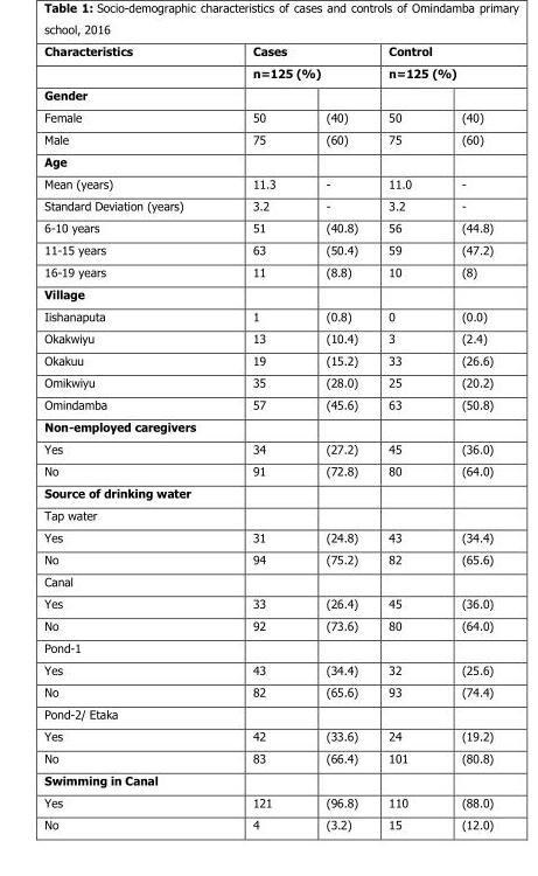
<table><thead><tr><td rowspan="3">Characteristics Gender</td><td rowspan="2" colspan="2">Cases n=125 (%)</td><td rowspan="2" colspan="2">Control n=125 (%)</td></tr><tr></tr><tr><td></td><td></td><td></td><td></td></tr></thead><tbody><tr><td>Female</td><td>50</td><td>(40)</td><td>50</td><td>(40)</td></tr><tr><td>Male</td><td>75</td><td>(60)</td><td>75</td><td>(60)</td></tr><tr><td colspan="5">Age</td></tr><tr><td>Mean (years)</td><td>11.3</td><td>-</td><td>11.0</td><td>-</td></tr><tr><td>Standard Deviation (years)</td><td>3.2</td><td>-</td><td>3.2</td><td>-</td></tr><tr><td>6-10 years</td><td>51</td><td>(40.8)</td><td>56</td><td>(44.8)</td></tr><tr><td>11-15 years</td><td>63</td><td>(50.4)</td><td>59</td><td>(47.2)</td></tr><tr><td>16-19 years</td><td>11</td><td>(8.8)</td><td>10</td><td>(8)</td></tr><tr><td colspan="5">Village</td></tr><tr><td>Iishanaputa</td><td>1</td><td>(0.8)</td><td>0</td><td>(0.0)</td></tr><tr><td>Okakwiyu</td><td>13</td><td>(10.4)</td><td>3</td><td>(2.4)</td></tr><tr><td>Okakuu</td><td>19</td><td>(15.2)</td><td>33</td><td>(26.6)</td></tr><tr><td>Omikwiyu</td><td>35</td><td>(28.0)</td><td>25</td><td>(20.2)</td></tr><tr><td>Omindamba</td><td>57</td><td>(45.6)</td><td>63</td><td>(50.8)</td></tr><tr><td colspan="5">Non-employed caregivers</td></tr><tr><td>Yes</td><td>34</td><td>(27.2)</td><td>45</td><td>(36.0)</td></tr><tr><td>No</td><td>91</td><td>(72.8)</td><td>80</td><td>(64.0)</td></tr><tr><td colspan="5">Source of drinking water</td></tr><tr><td colspan="5">Tap water</td></tr><tr><td>Yes</td><td>31</td><td>(24.8)</td><td>43</td><td>(34.4)</td></tr><tr><td>No</td><td>94</td><td>(75.2)</td><td>82</td><td>(65.6)</td></tr><tr><td colspan="5">Canal</td></tr><tr><td>Yes</td><td>33</td><td>(26.4)</td><td>45</td><td>(36.0)</td></tr><tr><td>No</td><td>92</td><td>(73.6)</td><td>80</td><td>(64.0)</td></tr><tr><td colspan="5">Pond-1</td></tr><tr><td>Yes</td><td>43</td><td>(34.4)</td><td>32</td><td>(25.6)</td></tr><tr><td>No</td><td>82</td><td>(65.6)</td><td>93</td><td>(74.4)</td></tr><tr><td colspan="5">Pond-2/ Etaka</td></tr><tr><td>Yes</td><td>42</td><td>(33.6)</td><td>24</td><td>(19.2)</td></tr><tr><td>No</td><td>83</td><td>(66.4)</td><td>101</td><td>(80.8)</td></tr><tr><td colspan="5">Swimming in Canal</td></tr><tr><td>Yes</td><td>121</td><td>(96.8)</td><td>110</td><td>(88.0)</td></tr><tr><td>No</td><td>4</td><td>(3.2)</td><td>15</td><td>(12.0)</td></tr></tbody></table>